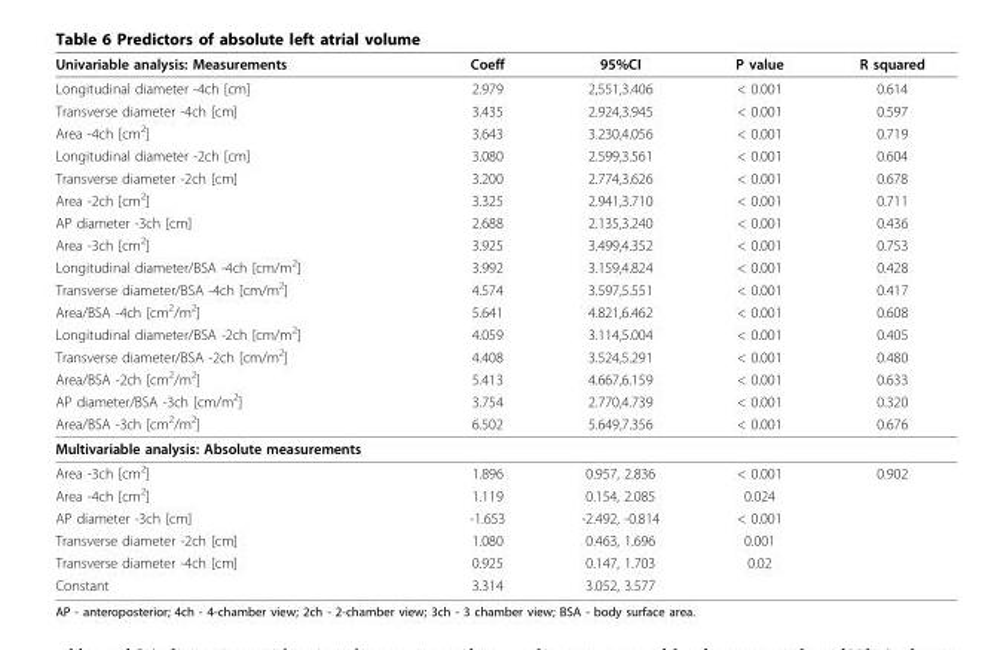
<table><thead><tr><td>Univariable analysis: Measurements</td><td>Coeff</td><td>95%CI</td><td>P value</td><td>R squared</td></tr></thead><tbody><tr><td>Longitudinal diameter -4ch [cm]</td><td>2.979</td><td>2,551,3.406</td><td>&lt; 0.001</td><td>0.614</td></tr><tr><td>Transverse diameter -4ch [cm]</td><td>3.435</td><td>2.924,3.945</td><td>&lt; 0.001</td><td>0.597</td></tr><tr><td>Area -4ch [cm<sup>2</sup>]</td><td>3.643</td><td>3.230,4.056</td><td>&lt; 0.001</td><td>0.719</td></tr><tr><td>Longitudinal diameter -2ch [cm]</td><td>3.080</td><td>2.599,3.561</td><td>&lt; 0.001</td><td>0.604</td></tr><tr><td>Transverse diameter -2ch [cm]</td><td>3.200</td><td>2.774,3.626</td><td>&lt; 0.001</td><td>0.678</td></tr><tr><td>Area -2ch [cm<sup>2</sup>]</td><td>3.325</td><td>2.941,3.710</td><td>&lt; 0.001</td><td>0.711</td></tr><tr><td>AP diameter -3ch [cm]</td><td>2.688</td><td>2.135,3.240</td><td>&lt; 0.001</td><td>0.436</td></tr><tr><td>Area -3ch [cm<sup>2</sup>]</td><td>3.925</td><td>3.499,4.352</td><td>&lt; 0.001</td><td>0.753</td></tr><tr><td>Longitudinal diameter/BSA -4ch [cm/m<sup>2</sup>]</td><td>3.992</td><td>3.159,4.824</td><td>&lt; 0.001</td><td>0.428</td></tr><tr><td>Transverse diameter/BSA -4ch [cm/m<sup>2</sup>]</td><td>4.574</td><td>3.597,5.551</td><td>&lt; 0.001</td><td>0.417</td></tr><tr><td>Area/BSA -4ch [cm<sup>2</sup>/m<sup>2</sup>]</td><td>5.641</td><td>4.821,6.462</td><td>&lt; 0.001</td><td>0.608</td></tr><tr><td>Longitudinal diameter/BSA -2ch [cm/m<sup>2</sup>]</td><td>4.059</td><td>3.114,5.004</td><td>&lt; 0.001</td><td>0.405</td></tr><tr><td>Transverse diameter/BSA -2ch [cm/m<sup>2</sup>]</td><td>4.408</td><td>3.524,5.291</td><td>&lt; 0.001</td><td>0.480</td></tr><tr><td>Area/BSA -2ch [cm<sup>2</sup>/m<sup>2</sup>]</td><td>5.413</td><td>4.667,6.159</td><td>&lt; 0.001</td><td>0.633</td></tr><tr><td>AP diameter/BSA -3ch [cm/m<sup>2</sup>]</td><td>3.754</td><td>2.770,4.739</td><td>&lt; 0.001</td><td>0.320</td></tr><tr><td>Area/BSA -3ch [cm<sup>2</sup>/m<sup>2</sup>]</td><td>6.502</td><td>5.649,7.356</td><td>&lt; 0.001</td><td>0.676</td></tr><tr><td colspan="5">Multivariable analysis: Absolute measurements</td></tr><tr><td>Area -3ch [cm<sup>2</sup>]</td><td>1.896</td><td>0.957, 2.836</td><td>&lt; 0.001</td><td>0.902</td></tr><tr><td>Area -4ch [cm<sup>2</sup>]</td><td>1.119</td><td>0.154, 2.085</td><td>0.024</td><td></td></tr><tr><td>AP diameter -3ch [cm]</td><td>-1.653</td><td>-2.492, -0.814</td><td>&lt; 0.001</td><td></td></tr><tr><td>Transverse diameter -2ch [cm]</td><td>1.080</td><td>0.463, 1.696</td><td>0.001</td><td></td></tr><tr><td>Transverse diameter -4ch [cm]</td><td>0.925</td><td>0.147, 1.703</td><td>0.02</td><td></td></tr><tr><td>Constant</td><td>3.314</td><td>3.052, 3.577</td><td></td><td></td></tr></tbody></table>